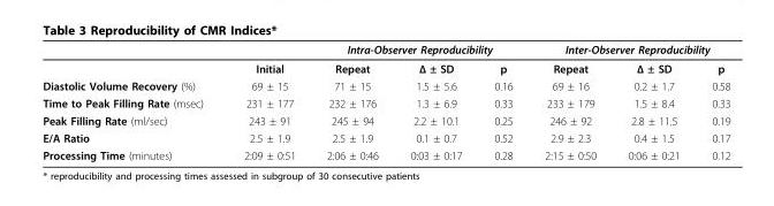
<table><thead><tr><td rowspan="2"></td><td rowspan="2">Initial</td><td colspan="3">Intra-Observer Reproducibility</td><td colspan="3">Inter-Observer Reproducibility</td></tr><tr><td>Repeat</td><td>Δ ± SD</td><td>p</td><td>Repeat</td><td>Δ ± SD</td><td>p</td></tr></thead><tbody><tr><td>Diastolic Volume Recovery (%)</td><td>69 ± 15</td><td>71 ± 15</td><td>1.5 ± 5.6</td><td>0.16</td><td>69 ± 16</td><td>0.2 ± 1.7</td><td>0.58</td></tr><tr><td>Time to Peak Filling Rate (msec)</td><td>231 ± 177</td><td>232 ± 176</td><td>1.3 ± 6.9</td><td>0.33</td><td>233 ± 179</td><td>1.5 ± 8.4</td><td>0.33</td></tr><tr><td>Peak Filling Rate (ml/sec)</td><td>243 ± 91</td><td>245 ± 94</td><td>2.2 ± 10.1</td><td>0.25</td><td>246 ± 92</td><td>2.8 ± 11.5</td><td>0.19</td></tr><tr><td>E/A Ratio</td><td>2.5 ± 1.9</td><td>2.5 ± 1.9</td><td>0.1 ± 0.7</td><td>0.52</td><td>2.9 ± 2.3</td><td>0.4 ± 1.5</td><td>0.17</td></tr><tr><td>Processing Time (minutes)</td><td>2:09 ± 0:51</td><td>2:06 ± 0:46</td><td>0:03 ± 0:17</td><td>0.28</td><td>2:15 ± 0:50</td><td>0:06 ± 0:21</td><td>0.12</td></tr></tbody></table>